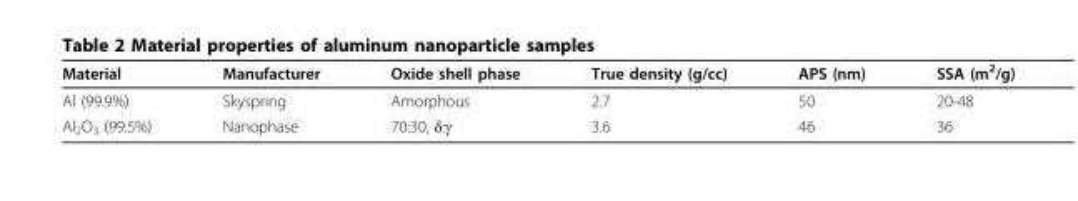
<table><thead><tr><td>Material</td><td>Manufacturer</td><td>Oxide shell phase</td><td>True density (g/cc)</td><td>APS (nm)</td><td>SSA (m<sup>2</sup>/g)</td></tr></thead><tbody><tr><td>Al (99.9%)</td><td>Skyspring</td><td>Amorphous</td><td>2.7</td><td>50</td><td>20-48</td></tr><tr><td>Al<sub>2</sub>O<sub>3</sub> (99.5%)</td><td>Nanophase</td><td>70:30, δ:γ</td><td>3.6</td><td>46</td><td>36</td></tr></tbody></table>